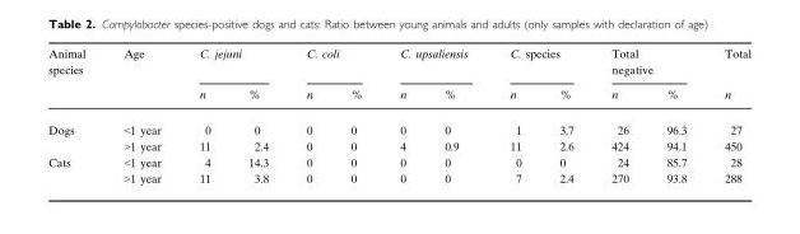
<table><thead><tr><td rowspan="2">Animal species</td><td rowspan="2">Age</td><td colspan="2">C. jejuni</td><td colspan="2">C. coli</td><td colspan="2">C. upsaliensis</td><td colspan="2">C. species</td><td colspan="2">Total negative</td><td rowspan="2">Total n</td></tr><tr><td>n</td><td>%</td><td>n</td><td>%</td><td>n</td><td>%</td><td>n</td><td>%</td><td>n</td><td>%</td></tr></thead><tbody><tr><td rowspan="2">Dogs</td><td>&lt;1 year</td><td>0</td><td>0</td><td>0</td><td>0</td><td>0</td><td>0</td><td>1</td><td>3.7</td><td>26</td><td>96.3</td><td>27</td></tr><tr><td>&gt;1 year</td><td>11</td><td>2.4</td><td>0</td><td>0</td><td>4</td><td>0.9</td><td>11</td><td>2.6</td><td>424</td><td>94.1</td><td>450</td></tr><tr><td rowspan="2">Cats</td><td>&lt;1 year</td><td>4</td><td>14.3</td><td>0</td><td>0</td><td>0</td><td>0</td><td>0</td><td>0</td><td>24</td><td>85.7</td><td>28</td></tr><tr><td>&gt;1 year</td><td>11</td><td>3.8</td><td>0</td><td>0</td><td>0</td><td>0</td><td>7</td><td>2.4</td><td>270</td><td>93.8</td><td>288</td></tr></tbody></table>